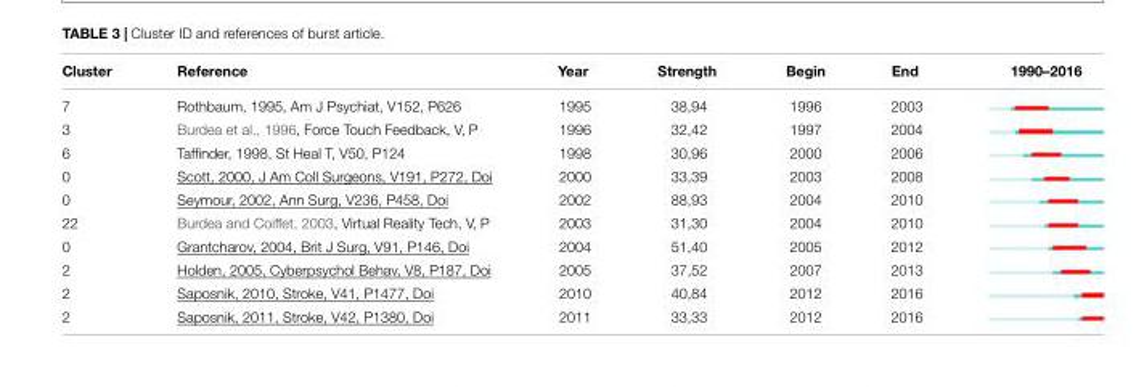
<table><thead><tr><td>Cluster</td><td>Reference</td><td>Year</td><td>Strength</td><td>Begin</td><td>End</td><td>1990–2016</td></tr></thead><tbody><tr><td>7</td><td>Rothbaum, 1995, Am J Psychiat, V152, P626</td><td>1995</td><td>38,94</td><td>1996</td><td>2003</td><td></td></tr><tr><td>3</td><td>Burdea et al., 1996, Force Touch Feedback, V, P</td><td>1996</td><td>32,42</td><td>1997</td><td>2004</td><td></td></tr><tr><td>6</td><td>Taffinder, 1998, St Heal T, V50, P124</td><td>1998</td><td>30,96</td><td>2000</td><td>2006</td><td></td></tr><tr><td>0</td><td>Scott, 2000, J Am Coll Surgeons, V191, P272, Doi</td><td>2000</td><td>33,39</td><td>2003</td><td>2008</td><td></td></tr><tr><td>0</td><td>Seymour, 2002, Ann Surg, V236, P458, Doi</td><td>2002</td><td>88,93</td><td>2004</td><td>2010</td><td></td></tr><tr><td>22</td><td>Burdea and Coiffet, 2003, Virtual Reality Tech, V, P</td><td>2003</td><td>31,30</td><td>2004</td><td>2010</td><td></td></tr><tr><td>0</td><td>Grantcharov, 2004, Brit J Surg, V91, P146, Doi</td><td>2004</td><td>51,40</td><td>2005</td><td>2012</td><td></td></tr><tr><td>2</td><td>Holden, 2005, Cyberpsychol Behav, V8, P187, Doi</td><td>2005</td><td>37,52</td><td>2007</td><td>2013</td><td></td></tr><tr><td>2</td><td>Saposnik, 2010, Stroke, V41, P1477, Doi</td><td>2010</td><td>40,84</td><td>2012</td><td>2016</td><td></td></tr><tr><td>2</td><td>Saposnik, 2011, Stroke, V42, P1380, Doi</td><td>2011</td><td>33,33</td><td>2012</td><td>2016</td><td></td></tr></tbody></table>